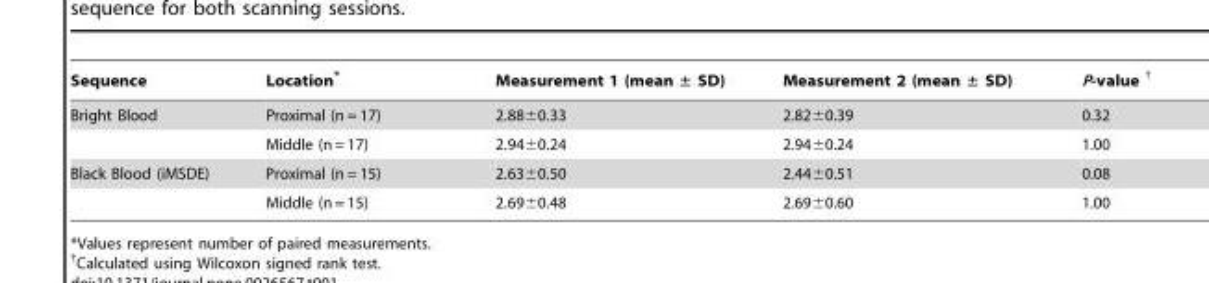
<table><thead><tr><td>Sequence</td><td>Location*</td><td>Measurement 1 (mean ± SD)</td><td>Measurement 2 (mean ± SD)</td><td>P-value</td></tr></thead><tbody><tr><td rowspan="2">Bright Blood</td><td>Proximal (n = 17)</td><td>2.88±0.33</td><td>2.82±0.39</td><td>0.32</td></tr><tr><td>Middle (n = 17)</td><td>2.94±0.24</td><td>2.94±0.24</td><td>1.00</td></tr><tr><td rowspan="2">Black Blood (iMSDE)</td><td>Proximal (n = 15)</td><td>2.63±0.50</td><td>2.44±0.51</td><td>0.08</td></tr><tr><td>Middle (n = 15)</td><td>2.69±0.48</td><td>2.69±0.60</td><td>1.00</td></tr></tbody></table>